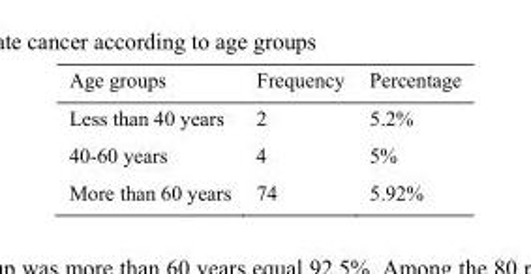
<table><thead><tr><td>Age groups</td><td>Frequency</td><td>Percentage</td></tr></thead><tbody><tr><td>Less than 40 years</td><td>2</td><td>5.2%</td></tr><tr><td>40-60 years</td><td>4</td><td>5%</td></tr><tr><td>More than 60 years</td><td>74</td><td>5.92%</td></tr></tbody></table>